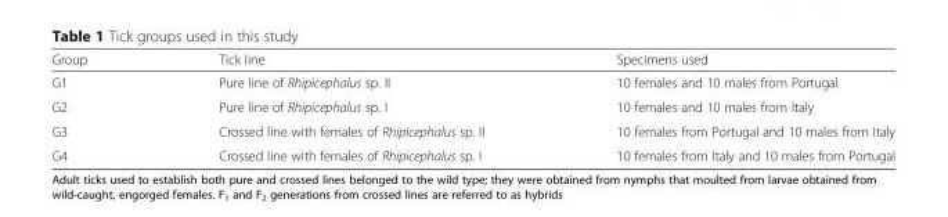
<table><thead><tr><td>Group</td><td>Tick line</td><td>Specimens used</td></tr></thead><tbody><tr><td>G1</td><td>Pure line of Rhipicephalus sp. II</td><td>10 females and 10 males from Portugal</td></tr><tr><td>G2</td><td>Pure line of Rhipicephalus sp. I</td><td>10 females and 10 males from Italy</td></tr><tr><td>G3</td><td>Crossed line with females of Rhipicephalus sp. II</td><td>10 females from Portugal and 10 males from Italy</td></tr><tr><td>G4</td><td>Crossed line with females of Rhipicephalus sp. I</td><td>10 females from Italy and 10 males from Portugal</td></tr></tbody></table>